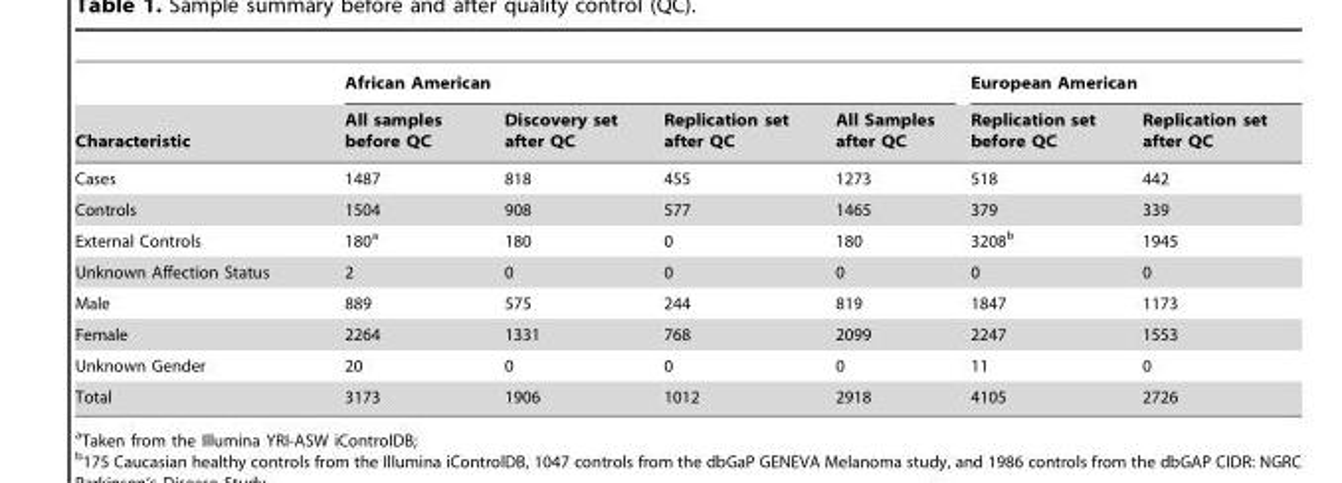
<table><thead><tr><td rowspan="2">Characteristic</td><td colspan="4">African American</td><td colspan="2">European American</td></tr><tr><td>All samples before QC</td><td>Discovery set after QC</td><td>Replication set after QC</td><td>All Samples after QC</td><td>Replication set before QC</td><td>Replication set after QC</td></tr></thead><tbody><tr><td>Cases</td><td>1487</td><td>818</td><td>455</td><td>1273</td><td>518</td><td>442</td></tr><tr><td>Controls</td><td>1504</td><td>908</td><td>577</td><td>1465</td><td>379</td><td>339</td></tr><tr><td>External Controls</td><td>180<sup>a</sup></td><td>180</td><td>0</td><td>180</td><td>3208<sup>b</sup></td><td>1945</td></tr><tr><td>Unknown Affection Status</td><td>2</td><td>0</td><td>0</td><td>0</td><td>0</td><td>0</td></tr><tr><td>Male</td><td>889</td><td>575</td><td>244</td><td>819</td><td>1847</td><td>1173</td></tr><tr><td>Female</td><td>2264</td><td>1331</td><td>768</td><td>2099</td><td>2247</td><td>1553</td></tr><tr><td>Unknown Gender</td><td>20</td><td>0</td><td>0</td><td>0</td><td>11</td><td>0</td></tr><tr><td>Total</td><td>3173</td><td>1906</td><td>1012</td><td>2918</td><td>4105</td><td>2726</td></tr></tbody></table>